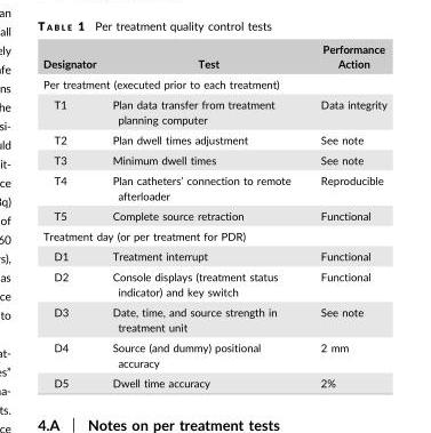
<table><thead><tr><td rowspan="2">Designator</td><td rowspan="2">Test</td><td rowspan="2">Performance Action</td></tr><tr></tr></thead><tbody><tr><td colspan="3">Per treatment (executed prior to each treatment)</td></tr><tr><td>T1</td><td>Plan data transfer from treatment planning computer</td><td>Data integrity</td></tr><tr><td>T2</td><td>Plan dwell times adjustment</td><td>See note</td></tr><tr><td>T3</td><td>Minimum dwell times</td><td>See note</td></tr><tr><td>T4</td><td>Plan catheters’ connection to remote afterloader</td><td>Reproducible</td></tr><tr><td>T5</td><td>Complete source retraction</td><td>Functional</td></tr><tr><td colspan="3">Treatment day (or per treatment for PDR)</td></tr><tr><td>D1</td><td>Treatment interrupt</td><td>Functional</td></tr><tr><td>D2</td><td>Console displays (treatment status indicator) and key switch</td><td>Functional</td></tr><tr><td>D3</td><td>Date, time, and source strength in treatment unit</td><td>See note</td></tr><tr><td>D4</td><td>Source (and dummy) positional accuracy</td><td>2 mm</td></tr><tr><td>D5</td><td>Dwell time accuracy</td><td>2%</td></tr></tbody></table>